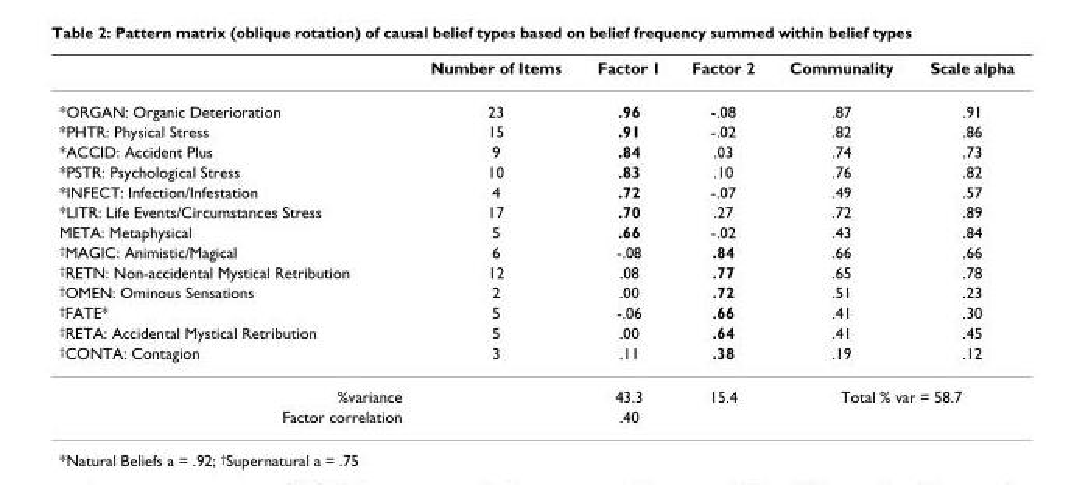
<table><thead><tr><td></td><td>Number of Items</td><td>Factor 1</td><td>Factor 2</td><td>Communality</td><td>Scale alpha</td></tr></thead><tbody><tr><td>*ORGAN: Organic Deterioration</td><td>23</td><td>.96</td><td>-.08</td><td>.87</td><td>.91</td></tr><tr><td>*PHTR: Physical Stress</td><td>15</td><td>.91</td><td>-.02</td><td>.82</td><td>.86</td></tr><tr><td>*ACCID: Accident Plus</td><td>9</td><td>.84</td><td>.03</td><td>.74</td><td>.73</td></tr><tr><td>*PSTR: Psychological Stress</td><td>10</td><td>.83</td><td>.10</td><td>.76</td><td>.82</td></tr><tr><td>*INFECT: Infection/Infestation</td><td>4</td><td>.72</td><td>-.07</td><td>.49</td><td>.57</td></tr><tr><td>*LITR: Life Events/Circumstances Stress</td><td>17</td><td>.70</td><td>.27</td><td>.72</td><td>.89</td></tr><tr><td>META: Metaphysical</td><td>5</td><td>.66</td><td>-.02</td><td>.43</td><td>.84</td></tr><tr><td><sup>†</sup>MAGIC: Animistic/Magical</td><td>6</td><td>-.08</td><td>.84</td><td>.66</td><td>.66</td></tr><tr><td><sup>†</sup>RETN: Non-accidental Mystical Retribution</td><td>12</td><td>.08</td><td>.77</td><td>.65</td><td>.78</td></tr><tr><td><sup>†</sup>OMEN: Ominous Sensations</td><td>2</td><td>.00</td><td>.72</td><td>.51</td><td>.23</td></tr><tr><td><sup>†</sup>FATE*</td><td>5</td><td>-.06</td><td>.66</td><td>.41</td><td>.30</td></tr><tr><td><sup>†</sup>RETA: Accidental Mystical Retribution</td><td>5</td><td>.00</td><td>.64</td><td>.41</td><td>.45</td></tr><tr><td><sup>†</sup>CONTA: Contagion</td><td>3</td><td>.11</td><td>.38</td><td>.19</td><td>.12</td></tr><tr><td>%variance</td><td></td><td>43.3</td><td>15.4</td><td colspan="2">Total % var = 58.7</td></tr><tr><td>Factor correlation</td><td></td><td>.40</td><td></td><td></td><td></td></tr></tbody></table>